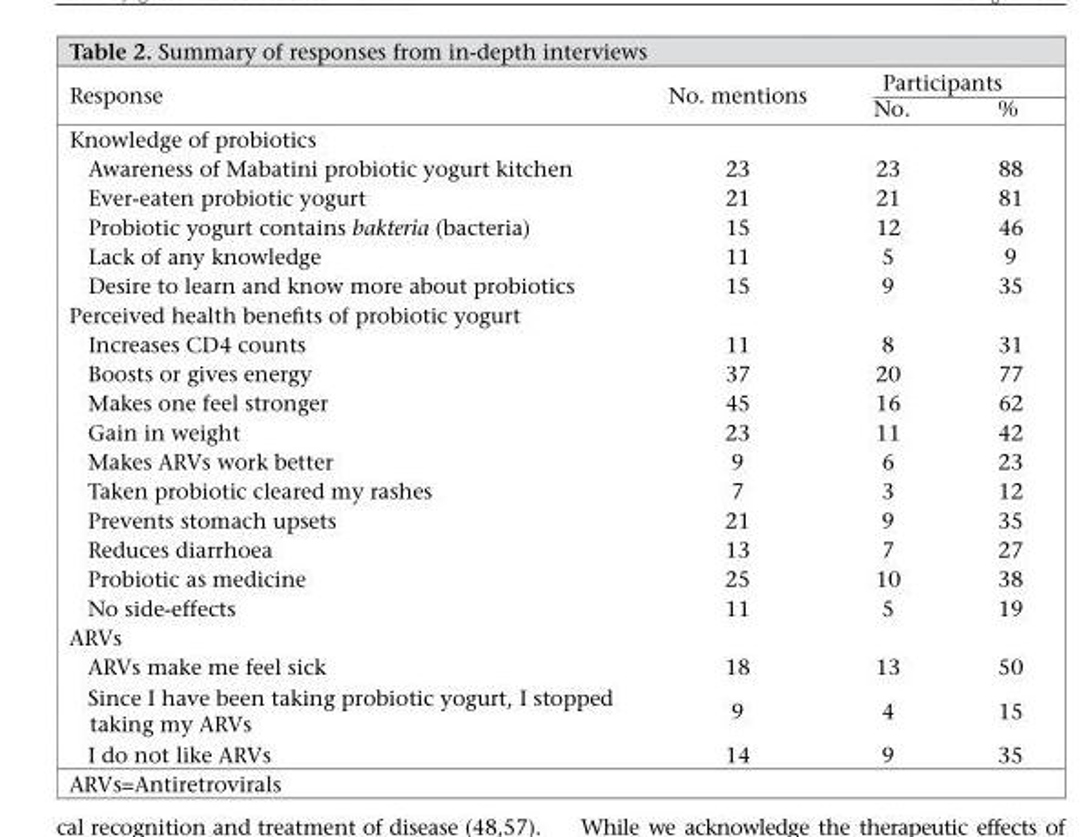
<table><thead><tr><td rowspan="2">Response</td><td rowspan="2">No. mentions</td><td colspan="2">Participants</td></tr><tr><td>No.</td><td>%</td></tr></thead><tbody><tr><td colspan="4">Knowledge of probiotics</td></tr><tr><td>Awareness of Mabatini probiotic yogurt kitchen</td><td>23</td><td>23</td><td>88</td></tr><tr><td>Ever-eaten probiotic yogurt</td><td>21</td><td>21</td><td>81</td></tr><tr><td>Probiotic yogurt contains bakteria (bacteria)</td><td>15</td><td>12</td><td>46</td></tr><tr><td>Lack of any knowledge</td><td>11</td><td>5</td><td>9</td></tr><tr><td>Desire to learn and know more about probiotics</td><td>15</td><td>9</td><td>35</td></tr><tr><td colspan="4">Perceived health benefits of probiotic yogurt</td></tr><tr><td>Increases CD4 counts</td><td>11</td><td>8</td><td>31</td></tr><tr><td>Boosts or gives energy</td><td>37</td><td>20</td><td>77</td></tr><tr><td>Makes one feel stronger</td><td>45</td><td>16</td><td>62</td></tr><tr><td>Gain in weight</td><td>23</td><td>11</td><td>42</td></tr><tr><td>Makes ARVs work better</td><td>9</td><td>6</td><td>23</td></tr><tr><td>Taken probiotic cleared my rashes</td><td>7</td><td>3</td><td>12</td></tr><tr><td>Prevents stomach upsets</td><td>21</td><td>9</td><td>35</td></tr><tr><td>Reduces diarrhoea</td><td>13</td><td>7</td><td>27</td></tr><tr><td>Probiotic as medicine</td><td>25</td><td>10</td><td>38</td></tr><tr><td>No side-effects</td><td>11</td><td>5</td><td>19</td></tr><tr><td colspan="4">ARVs</td></tr><tr><td>ARVs make me feel sick</td><td>18</td><td>13</td><td>50</td></tr><tr><td>Since I have been taking probiotic yogurt, I stopped taking my ARVs</td><td>9</td><td>4</td><td>15</td></tr><tr><td>I do not like ARVs</td><td>14</td><td>9</td><td>35</td></tr></tbody></table>